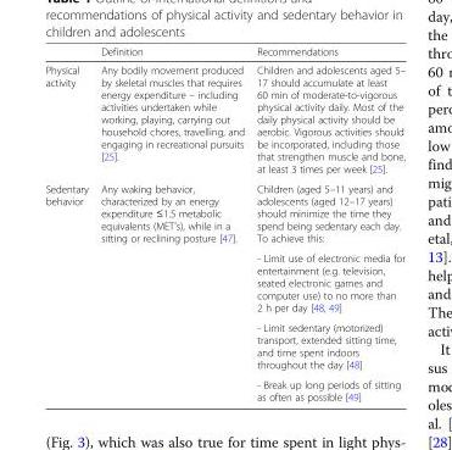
<table><thead><tr><td></td><td>Definition</td><td>Recommendations</td></tr></thead><tbody><tr><td>Physical activity</td><td>Any bodily movement produced by skeletal muscles that requires energy expenditure – including activities undertaken while working, playing, carrying out household chores, travelling, and engaging in recreational pursuits [25].</td><td>Children and adolescents aged 5– 17 should accumulate at least 60 min of moderate-to-vigorous physical activity daily. Most of the daily physical activity should be aerobic. Vigorous activities should be incorporated, including those that strengthen muscle and bone, at least 3 times per week [25].</td></tr><tr><td rowspan="4">Sedentary behavior</td><td rowspan="4">Any waking behavior, characterized by an energy expenditure ≤1.5 metabolic equivalents (MET’s), while in a sitting or reclining posture [47].</td><td>Children (aged 5–11 years) and adolescents (aged 12–17 years) should minimize the time they spend being sedentary each day. To achieve this:</td></tr><tr><td>- Limit use of electronic media for entertainment (e.g. television, seated electronic games and computer use) to no more than 2 h per day [48, 49]</td></tr><tr><td>- Limit sedentary (motorized) transport, extended sitting time, and time spent indoors throughout the day [48]</td></tr><tr><td>- Break up long periods of sitting as often as possible [49]</td></tr></tbody></table>